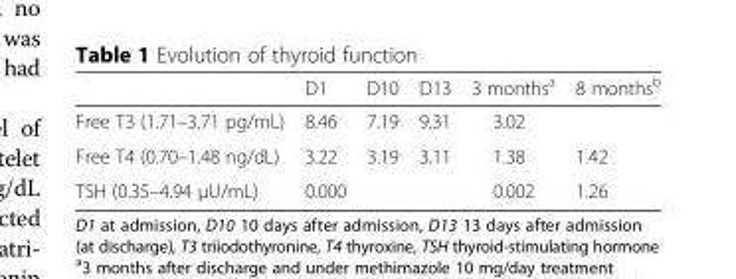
<table><thead><tr><td></td><td>D1</td><td>D10</td><td>D13</td><td>3 months<sup>a</sup></td><td>8 months<sup>b</sup></td></tr></thead><tbody><tr><td>Free T3 (1.71–3.71 pg/mL)</td><td>8.46</td><td>7.19</td><td>9.31</td><td>3.02</td><td></td></tr><tr><td>Free T4 (0.70–1.48 ng/dL)</td><td>3.22</td><td>3.19</td><td>3.11</td><td>1.38</td><td>1.42</td></tr><tr><td>TSH (0.35–4.94 μU/mL)</td><td>0.000</td><td></td><td></td><td>0.002</td><td>1.26</td></tr></tbody></table>